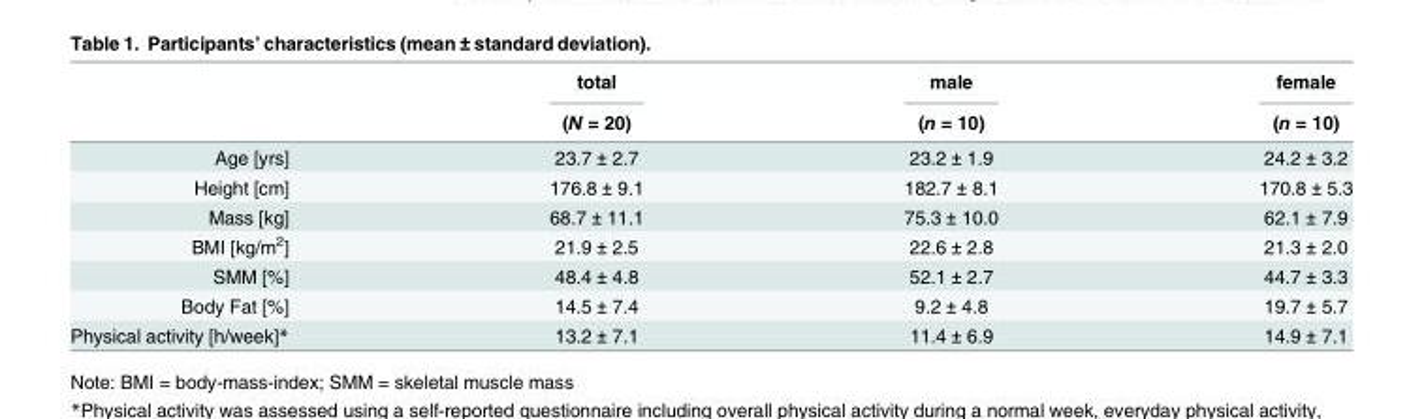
<table><thead><tr><td rowspan="2"></td><td rowspan="2">total (N = 20)</td><td rowspan="2">male (n = 10)</td><td rowspan="2">female (n = 10)</td></tr><tr></tr></thead><tbody><tr><td>Age [yrs]</td><td>23.7 ± 2.7</td><td>23.2 ± 1.9</td><td>24.2 ± 3.2</td></tr><tr><td>Height [cm]</td><td>176.8 ± 9.1</td><td>182.7 ± 8.1</td><td>170.8 ± 5.3</td></tr><tr><td>Mass [kg]</td><td>68.7 ± 11.1</td><td>75.3 ± 10.0</td><td>62.1 ± 7.9</td></tr><tr><td>BMI [kg/m<sup>2</sup>]</td><td>21.9 ± 2.5</td><td>22.6 ± 2.8</td><td>21.3 ± 2.0</td></tr><tr><td>SMM [%]</td><td>48.4 ± 4.8</td><td>52.1 ± 2.7</td><td>44.7 ± 3.3</td></tr><tr><td>Body Fat [%]</td><td>14.5 ± 7.4</td><td>9.2 ± 4.8</td><td>19.7 ± 5.7</td></tr><tr><td>Physical activity [h/week]*</td><td>13.2 ± 7.1</td><td>11.4 ± 6.9</td><td>14.9 ± 7.1</td></tr></tbody></table>